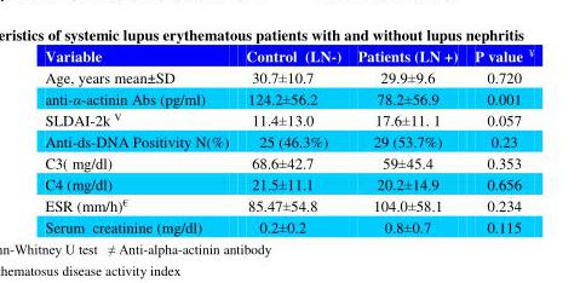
<table><thead><tr><td>Variable</td><td>Control (LN-)</td><td>Patients (LN +)</td><td>P value ¥</td></tr></thead><tbody><tr><td>Age, years mean±SD</td><td>30.7±10.7</td><td>29.9±9.6</td><td>0.720</td></tr><tr><td>anti-α-actinin Abs (pg/ml)</td><td>124.2±56.2</td><td>78.2±56.9</td><td>0.001</td></tr><tr><td>SLDAI-2k <sup>V</sup></td><td>11.4±13.0</td><td>17.6±11. 1</td><td>0.057</td></tr><tr><td>Anti-ds-DNA Positivity N(%)</td><td>25 (46.3%)</td><td>29 (53.7%)</td><td>0.23</td></tr><tr><td>C3( mg/dl)</td><td>68.6±42.7</td><td>59±45.4</td><td>0.353</td></tr><tr><td>C4 (mg/dl)</td><td>21.5±11.1</td><td>20.2±14.9</td><td>0.656</td></tr><tr><td>ESR (mm/h)<sup>€</sup></td><td>85.47±54.8</td><td>104.0±58.1</td><td>0.234</td></tr><tr><td>Serum creatinine (mg/dl)</td><td>0.2±0.2</td><td>0.8±0.7</td><td>0.115</td></tr></tbody></table>